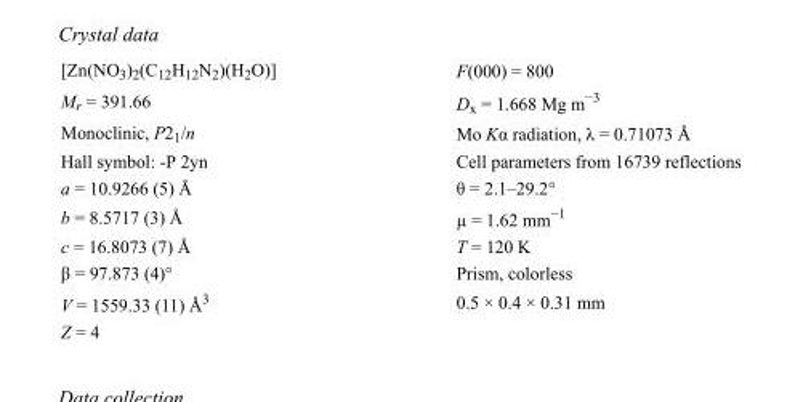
<table><tbody><tr><td>[Zn(NO<sub>3</sub>)<sub>2</sub>(C<sub>12</sub>H<sub>12</sub>N<sub>2</sub>)(H<sub>2</sub>O)]</td><td>F(000) = 800</td></tr><tr><td>M<sub>r</sub> = 391.66</td><td>D<sub>x</sub> = 1.668 Mg m<sup>−3</sup></td></tr><tr><td>Monoclinic, P2<sub>1</sub>/n</td><td>Mo Kα radiation, λ = 0.71073 Å</td></tr><tr><td>Hall symbol: -P 2yn</td><td>Cell parameters from 16739 reflections</td></tr><tr><td>a = 10.9266 (5) Å</td><td>θ = 2.1–29.2°</td></tr><tr><td>b = 8.5717 (3) Å</td><td>µ = 1.62 mm<sup>−1</sup></td></tr><tr><td>c = 16.8073 (7) Å</td><td>T = 120 K</td></tr><tr><td>β = 97.873 (4)°</td><td>Prism, colorless</td></tr><tr><td>V = 1559.33 (11) Å<sup>3</sup></td><td>0.5 × 0.4 × 0.31 mm</td></tr><tr><td>Z = 4</td><td></td></tr></tbody></table>